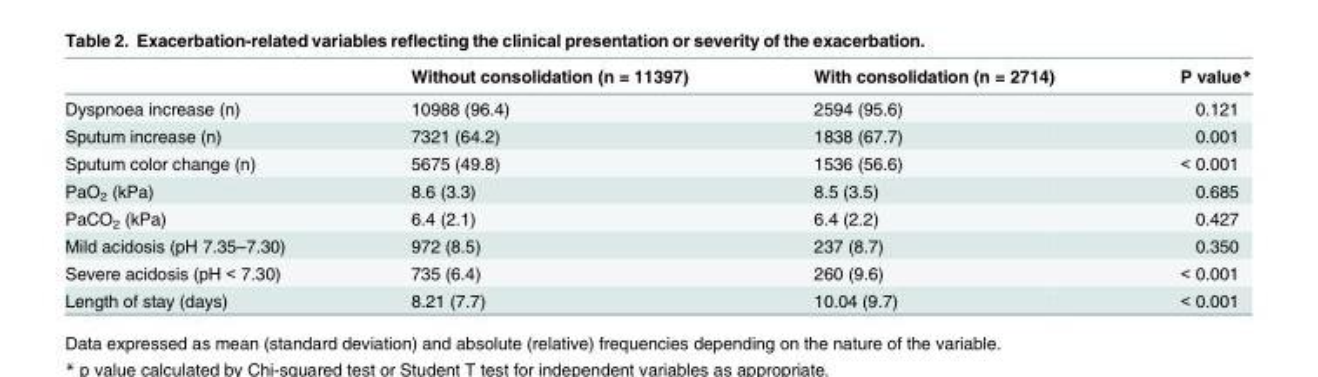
<table><thead><tr><td></td><td>Without consolidation (n = 11397)</td><td>With consolidation (n = 2714)</td><td>P value*</td></tr></thead><tbody><tr><td>Dyspnoea increase (n)</td><td>10988 (96.4)</td><td>2594 (95.6)</td><td>0.121</td></tr><tr><td>Sputum increase (n)</td><td>7321 (64.2)</td><td>1838 (67.7)</td><td>0.001</td></tr><tr><td>Sputum color change (n)</td><td>5675 (49.8)</td><td>1536 (56.6)</td><td>&lt; 0.001</td></tr><tr><td>PaO<sub>2</sub> (kPa)</td><td>8.6 (3.3)</td><td>8.5 (3.5)</td><td>0.685</td></tr><tr><td>PaCO<sub>2</sub> (kPa)</td><td>6.4 (2.1)</td><td>6.4 (2.2)</td><td>0.427</td></tr><tr><td>Mild acidosis (pH 7.35–7.30)</td><td>972 (8.5)</td><td>237 (8.7)</td><td>0.350</td></tr><tr><td>Severe acidosis (pH &lt; 7.30)</td><td>735 (6.4)</td><td>260 (9.6)</td><td>&lt; 0.001</td></tr><tr><td>Length of stay (days)</td><td>8.21 (7.7)</td><td>10.04 (9.7)</td><td>&lt; 0.001</td></tr></tbody></table>